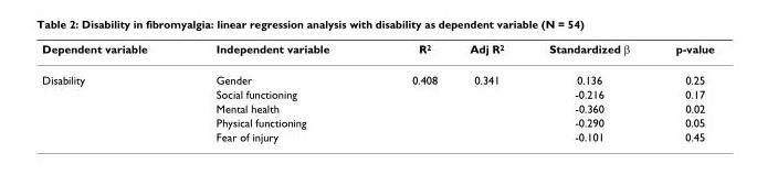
<table><thead><tr><td>Dependent variable</td><td>Independent variable</td><td>R<sup>2</sup></td><td>Adj R<sup>2</sup></td><td>Standardized β</td><td>p-value</td></tr></thead><tbody><tr><td rowspan="5">Disability</td><td>Gender</td><td>0.408</td><td>0.341</td><td>0.136</td><td>0.25</td></tr><tr><td>Social functioning</td><td></td><td></td><td>-0.216</td><td>0.17</td></tr><tr><td>Mental health</td><td></td><td></td><td>-0.360</td><td>0.02</td></tr><tr><td>Physical functioning</td><td></td><td></td><td>-0.290</td><td>0.05</td></tr><tr><td>Fear of injury</td><td></td><td></td><td>-0.101</td><td>0.45</td></tr></tbody></table>